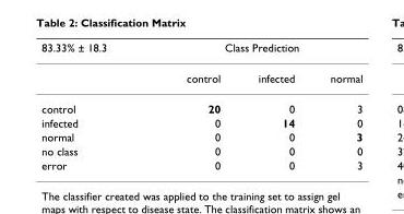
<table><thead><tr><td rowspan="2">83.33% ± 18.3</td><td colspan="3">Class Prediction</td></tr><tr><td>control</td><td>infected</td><td>normal</td></tr></thead><tbody><tr><td>control</td><td>20</td><td>0</td><td>3</td></tr><tr><td>infected</td><td>0</td><td>14</td><td>0</td></tr><tr><td>normal</td><td>0</td><td>0</td><td>3</td></tr><tr><td>no class</td><td>0</td><td>0</td><td>0</td></tr><tr><td>error</td><td>0</td><td>0</td><td>3</td></tr></tbody></table>